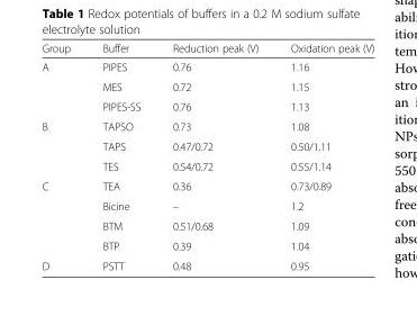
<table><thead><tr><td>Group</td><td>Buffer</td><td>Reduction peak (V)</td><td>Oxidation peak (V)</td></tr></thead><tbody><tr><td rowspan="3">A</td><td>PIPES</td><td>0.76</td><td>1.16</td></tr><tr><td>MES</td><td>0.72</td><td>1.15</td></tr><tr><td>PIPES-SS</td><td>0.76</td><td>1.13</td></tr><tr><td rowspan="3">B</td><td>TAPSO</td><td>0.73</td><td>1.08</td></tr><tr><td>TAPS</td><td>0.47/0.72</td><td>0.50/1.11</td></tr><tr><td>TES</td><td>0.54/0.72</td><td>0.55/1.14</td></tr><tr><td rowspan="4">C</td><td>TEA</td><td>0.36</td><td>0.73/0.89</td></tr><tr><td>Bicine</td><td>–</td><td>1.2</td></tr><tr><td>BTM</td><td>0.51/0.68</td><td>1.09</td></tr><tr><td>BTP</td><td>0.39</td><td>1.04</td></tr><tr><td>D</td><td>PSTT</td><td>0.48</td><td>0.95</td></tr></tbody></table>